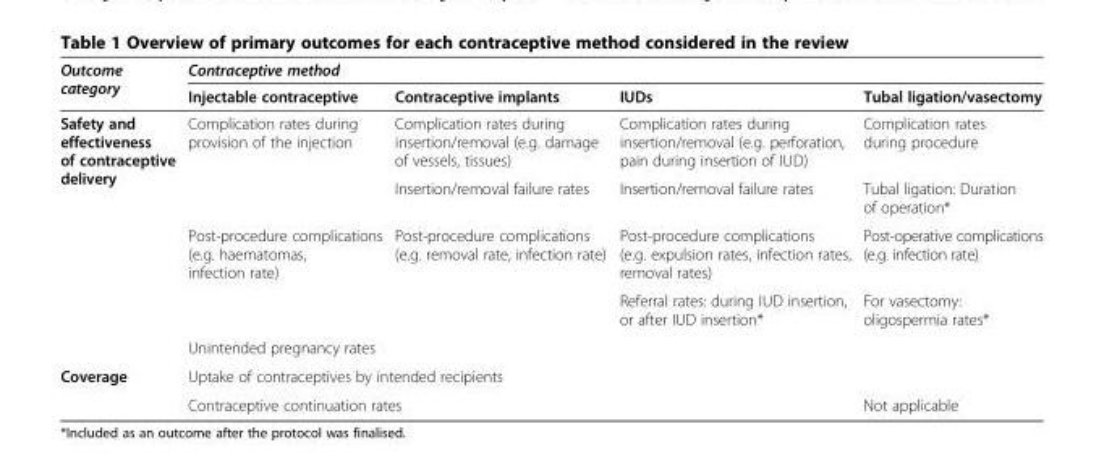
<table><thead><tr><td rowspan="2">Outcome category</td><td colspan="4">Contraceptive method</td></tr><tr><td>Injectable contraceptive</td><td>Contraceptive implants</td><td>IUDs</td><td>Tubal ligation/vasectomy</td></tr></thead><tbody><tr><td rowspan="5">Safety and effectiveness of contraceptive delivery</td><td>Complication rates during provision of the injection</td><td>Complication rates during insertion/removal (e.g. damage of vessels, tissues)</td><td>Complication rates during insertion/removal (e.g. perforation, pain during insertion of IUD)</td><td>Complication rates during procedure</td></tr><tr><td></td><td>Insertion/removal failure rates</td><td>Insertion/removal failure rates</td><td>Tubal ligation: Duration of operation*</td></tr><tr><td rowspan="2">Post-procedure complications (e.g. haematomas, infection rate)</td><td rowspan="2">Post-procedure complications (e.g. removal rate, infection rate)</td><td>Post-procedure complications (e.g. expulsion rates, infection rates, removal rates)</td><td>Post-operative complications (e.g. infection rate)</td></tr><tr><td>Referral rates: during IUD insertion, or after IUD insertion*</td><td>For vasectomy: oligospermia rates*</td></tr><tr><td colspan="4">Unintended pregnancy rates</td></tr><tr><td rowspan="2">Coverage</td><td colspan="4">Uptake of contraceptives by intended recipients</td></tr><tr><td colspan="3">Contraceptive continuation rates</td><td>Not applicable</td></tr></tbody></table>